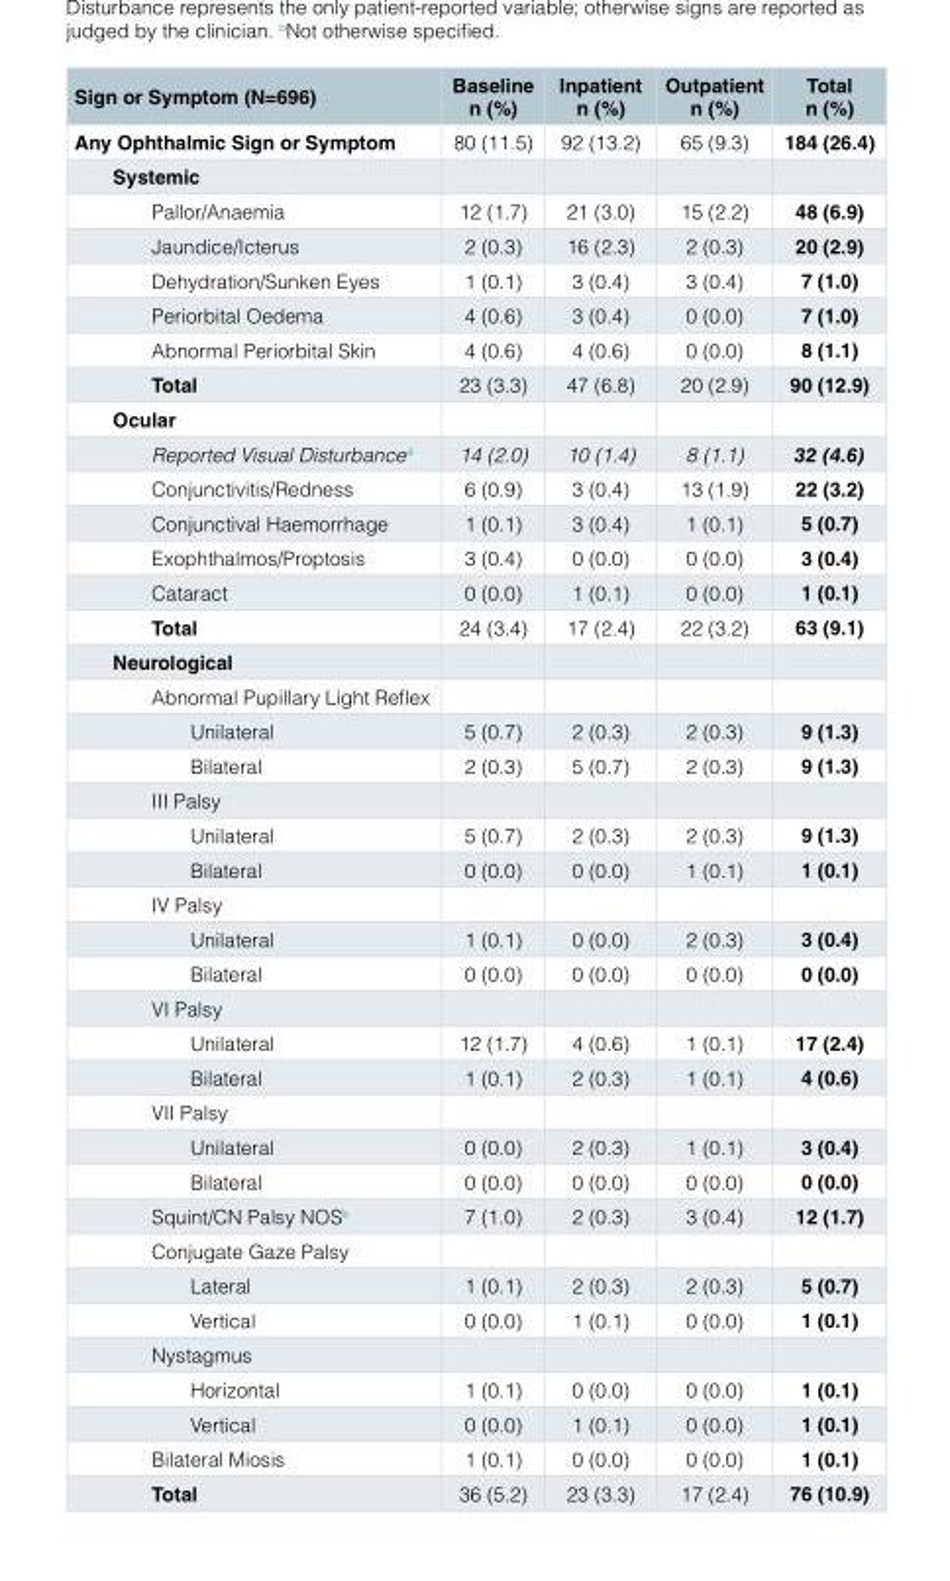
<table><thead><tr><td>Sign or Symptom (N=696)</td><td>Baseline n (%)</td><td>Inpatient n (%)</td><td>Outpatient n (%)</td><td>Total n (%)</td></tr></thead><tbody><tr><td>Any Ophthalmic Sign or Symptom</td><td>80 (11.5)</td><td>92 (13.2)</td><td>65 (9.3)</td><td>184 (26.4)</td></tr><tr><td colspan="5">Systemic</td></tr><tr><td>Pallor/Anaemia</td><td>12 (1.7)</td><td>21 (3.0)</td><td>15 (2.2)</td><td>48 (6.9)</td></tr><tr><td>Jaundice/Icterus</td><td>2 (0.3)</td><td>16 (2.3)</td><td>2 (0.3)</td><td>20 (2.9)</td></tr><tr><td>Dehydration/Sunken Eyes</td><td>1 (0.1)</td><td>3 (0.4)</td><td>3 (0.4)</td><td>7 (1.0)</td></tr><tr><td>Periorbital Oedema</td><td>4 (0.6)</td><td>3 (0.4)</td><td>0 (0.0)</td><td>7 (1.0)</td></tr><tr><td>Abnormal Periorbital Skin</td><td>4 (0.6)</td><td>4 (0.6)</td><td>0 (0.0)</td><td>8 (1.1)</td></tr><tr><td>Total</td><td>23 (3.3)</td><td>47 (6.8)</td><td>20 (2.9)</td><td>90 (12.9)</td></tr><tr><td colspan="5">Ocular</td></tr><tr><td>Reported Visual Disturbance<sup>a</sup></td><td>14 (2.0)</td><td>10 (1.4)</td><td>8 (1.1)</td><td>32 (4.6)</td></tr><tr><td>Conjunctivitis/Redness</td><td>6 (0.9)</td><td>3 (0.4)</td><td>13 (1.9)</td><td>22 (3.2)</td></tr><tr><td>Conjunctival Haemorrhage</td><td>1 (0.1)</td><td>3 (0.4)</td><td>1 (0.1)</td><td>5 (0.7)</td></tr><tr><td>Exophthalmos/Proptosis</td><td>3 (0.4)</td><td>0 (0.0)</td><td>0 (0.0)</td><td>3 (0.4)</td></tr><tr><td>Cataract</td><td>0 (0.0)</td><td>1 (0.1)</td><td>0 (0.0)</td><td>1 (0.1)</td></tr><tr><td>Total</td><td>24 (3.4)</td><td>17 (2.4)</td><td>22 (3.2)</td><td>63 (9.1)</td></tr><tr><td colspan="5">Neurological</td></tr><tr><td colspan="5">Abnormal Pupillary Light Reflex</td></tr><tr><td>Unilateral</td><td>5 (0.7)</td><td>2 (0.3)</td><td>2 (0.3)</td><td>9 (1.3)</td></tr><tr><td>Bilateral</td><td>2 (0.3)</td><td>5 (0.7)</td><td>2 (0.3)</td><td>9 (1.3)</td></tr><tr><td colspan="5">III Palsy</td></tr><tr><td>Unilateral</td><td>5 (0.7)</td><td>2 (0.3)</td><td>2 (0.3)</td><td>9 (1.3)</td></tr><tr><td>Bilateral</td><td>0 (0.0)</td><td>0 (0.0)</td><td>1 (0.1)</td><td>1 (0.1)</td></tr><tr><td colspan="5">IV Palsy</td></tr><tr><td>Unilateral</td><td>1 (0.1)</td><td>0 (0.0)</td><td>2 (0.3)</td><td>3 (0.4)</td></tr><tr><td>Bilateral</td><td>0 (0.0)</td><td>0 (0.0)</td><td>0 (0.0)</td><td>0 (0.0)</td></tr><tr><td colspan="5">VI Palsy</td></tr><tr><td>Unilateral</td><td>12 (1.7)</td><td>4 (0.6)</td><td>1 (0.1)</td><td>17 (2.4)</td></tr><tr><td>Bilateral</td><td>1 (0.1)</td><td>2 (0.3)</td><td>1 (0.1)</td><td>4 (0.6)</td></tr><tr><td colspan="5">VII Palsy</td></tr><tr><td>Unilateral</td><td>0 (0.0)</td><td>2 (0.3)</td><td>1 (0.1)</td><td>3 (0.4)</td></tr><tr><td>Bilateral</td><td>0 (0.0)</td><td>0 (0.0)</td><td>0 (0.0)</td><td>0 (0.0)</td></tr><tr><td>Squint/CN Palsy NOS<sup>b</sup></td><td>7 (1.0)</td><td>2 (0.3)</td><td>3 (0.4)</td><td>12 (1.7)</td></tr><tr><td colspan="5">Conjugate Gaze Palsy</td></tr><tr><td>Lateral</td><td>1 (0.1)</td><td>2 (0.3)</td><td>2 (0.3)</td><td>5 (0.7)</td></tr><tr><td>Vertical</td><td>0 (0.0)</td><td>1 (0.1)</td><td>0 (0.0)</td><td>1 (0.1)</td></tr><tr><td colspan="5">Nystagmus</td></tr><tr><td>Horizontal</td><td>1 (0.1)</td><td>0 (0.0)</td><td>0 (0.0)</td><td>1 (0.1)</td></tr><tr><td>Vertical</td><td>0 (0.0)</td><td>1 (0.1)</td><td>0 (0.0)</td><td>1 (0.1)</td></tr><tr><td>Bilateral Miosis</td><td>1 (0.1)</td><td>0 (0.0)</td><td>0 (0.0)</td><td>1 (0.1)</td></tr><tr><td>Total</td><td>36 (5.2)</td><td>23 (3.3)</td><td>17 (2.4)</td><td>76 (10.9)</td></tr></tbody></table>